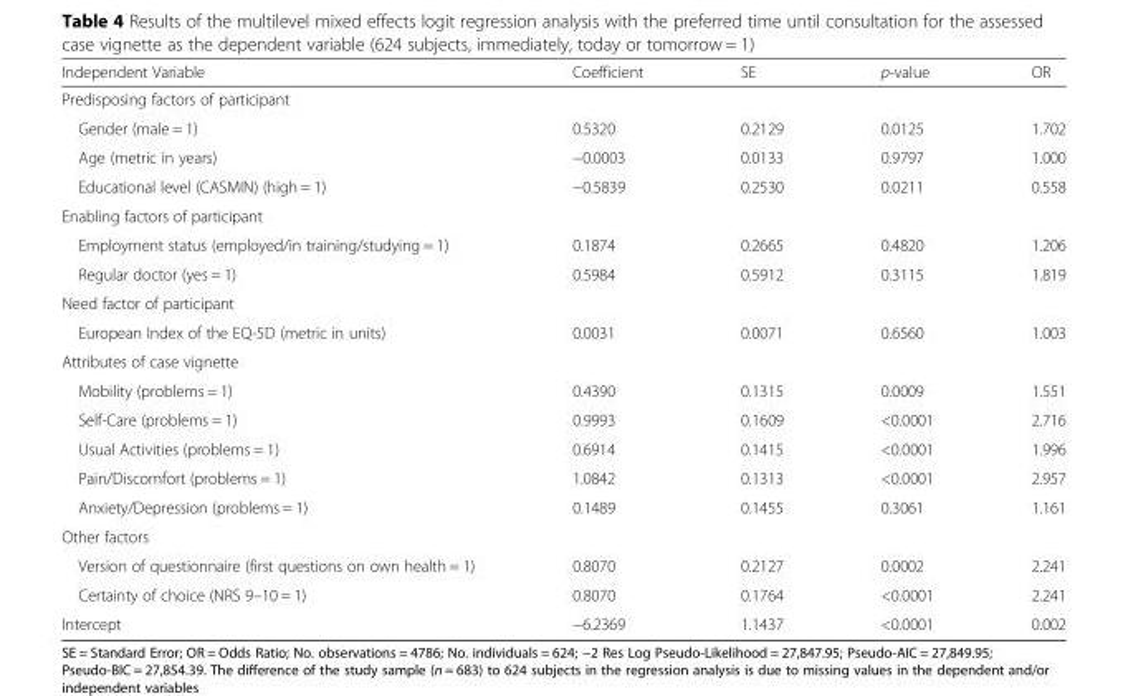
<table><thead><tr><td>Independent Variable</td><td>Coefficient</td><td>SE</td><td>p-value</td><td>OR</td></tr></thead><tbody><tr><td colspan="5">Predisposing factors of participant</td></tr><tr><td>Gender (male = 1)</td><td>0.5320</td><td>0.2129</td><td>0.0125</td><td>1.702</td></tr><tr><td>Age (metric in years)</td><td>−0.0003</td><td>0.0133</td><td>0.9797</td><td>1.000</td></tr><tr><td>Educational level (CASMIN) (high = 1)</td><td>−0.5839</td><td>0.2530</td><td>0.0211</td><td>0.558</td></tr><tr><td colspan="5">Enabling factors of participant</td></tr><tr><td>Employment status (employed/in training/studying = 1)</td><td>0.1874</td><td>0.2665</td><td>0.4820</td><td>1.206</td></tr><tr><td>Regular doctor (yes = 1)</td><td>0.5984</td><td>0.5912</td><td>0.3115</td><td>1.819</td></tr><tr><td colspan="5">Need factor of participant</td></tr><tr><td>European Index of the EQ-5D (metric in units)</td><td>0.0031</td><td>0.0071</td><td>0.6560</td><td>1.003</td></tr><tr><td colspan="5">Attributes of case vignette</td></tr><tr><td>Mobility (problems = 1)</td><td>0.4390</td><td>0.1315</td><td>0.0009</td><td>1.551</td></tr><tr><td>Self-Care (problems = 1)</td><td>0.9993</td><td>0.1609</td><td>&lt;0.0001</td><td>2.716</td></tr><tr><td>Usual Activities (problems = 1)</td><td>0.6914</td><td>0.1415</td><td>&lt;0.0001</td><td>1.996</td></tr><tr><td>Pain/Discomfort (problems = 1)</td><td>1.0842</td><td>0.1313</td><td>&lt;0.0001</td><td>2.957</td></tr><tr><td>Anxiety/Depression (problems = 1)</td><td>0.1489</td><td>0.1455</td><td>0.3061</td><td>1.161</td></tr><tr><td colspan="5">Other factors</td></tr><tr><td>Version of questionnaire (first questions on own health = 1)</td><td>0.8070</td><td>0.2127</td><td>0.0002</td><td>2.241</td></tr><tr><td>Certainty of choice (NRS 9–10 = 1)</td><td>0.8070</td><td>0.1764</td><td>&lt;0.0001</td><td>2.241</td></tr><tr><td>Intercept</td><td>−6.2369</td><td>1.1437</td><td>&lt;0.0001</td><td>0.002</td></tr></tbody></table>